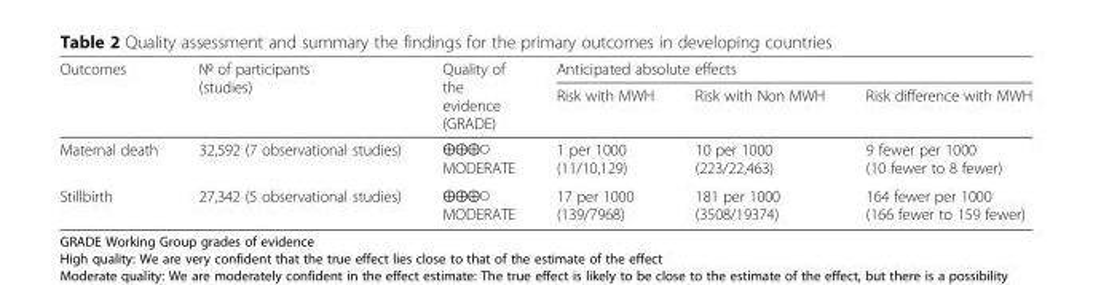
<table><thead><tr><td rowspan="2">Outcomes</td><td rowspan="2">№ of participants (studies)</td><td rowspan="2">Quality of the evidence (GRADE)</td><td colspan="3">Anticipated absolute effects</td></tr><tr><td>Risk with MWH</td><td>Risk with Non MWH</td><td>Risk difference with MWH</td></tr></thead><tbody><tr><td>Maternal death</td><td>32,592 (7 observational studies)</td><td>⨁⨁⨁◯ MODERATE</td><td>1 per 1000 (11/10,129)</td><td>10 per 1000 (223/22,463)</td><td>9 fewer per 1000 (10 fewer to 8 fewer)</td></tr><tr><td>Stillbirth</td><td>27,342 (5 observational studies)</td><td>⨁⨁⨁◯ MODERATE</td><td>17 per 1000 (139/7968)</td><td>181 per 1000 (3508/19374)</td><td>164 fewer per 1000 (166 fewer to 159 fewer)</td></tr></tbody></table>